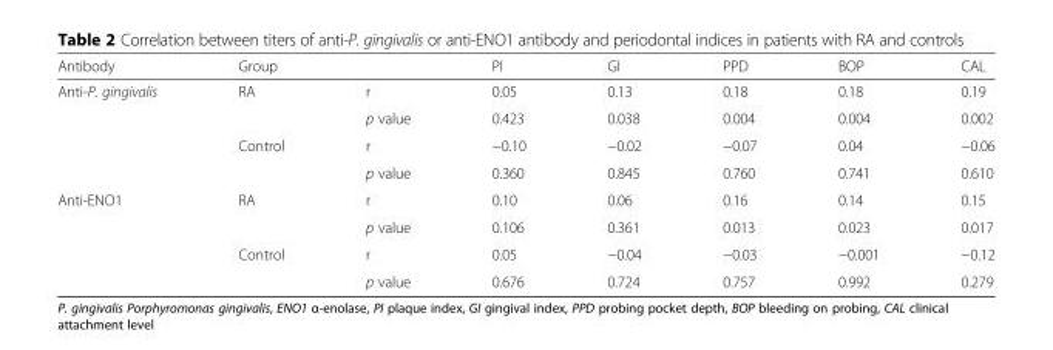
<table><thead><tr><td>Antibody</td><td>Group</td><td></td><td>PI</td><td>GI</td><td>PPD</td><td>BOP</td><td>CAL</td></tr></thead><tbody><tr><td rowspan="4">Anti-P. gingivalis</td><td rowspan="2">RA</td><td>r</td><td>0.05</td><td>0.13</td><td>0.18</td><td>0.18</td><td>0.19</td></tr><tr><td>p value</td><td>0.423</td><td>0.038</td><td>0.004</td><td>0.004</td><td>0.002</td></tr><tr><td rowspan="2">Control</td><td>r</td><td>−0.10</td><td>−0.02</td><td>−0.07</td><td>0.04</td><td>−0.06</td></tr><tr><td>p value</td><td>0.360</td><td>0.845</td><td>0.760</td><td>0.741</td><td>0.610</td></tr><tr><td rowspan="4">Anti-ENO1</td><td rowspan="2">RA</td><td>r</td><td>0.10</td><td>0.06</td><td>0.16</td><td>0.14</td><td>0.15</td></tr><tr><td>p value</td><td>0.106</td><td>0.361</td><td>0.013</td><td>0.023</td><td>0.017</td></tr><tr><td rowspan="2">Control</td><td>r</td><td>0.05</td><td>−0.04</td><td>−0.03</td><td>−0.001</td><td>−0.12</td></tr><tr><td>p value</td><td>0.676</td><td>0.724</td><td>0.757</td><td>0.992</td><td>0.279</td></tr></tbody></table>